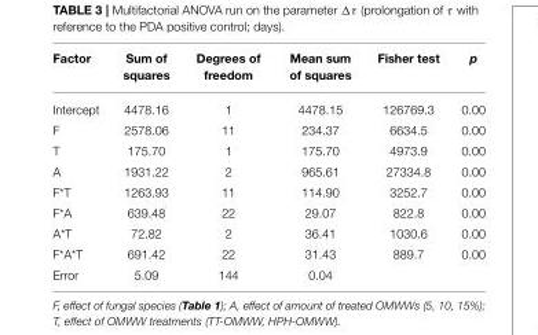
<table><thead><tr><td>Factor</td><td>Sum of squares</td><td>Degrees of freedom</td><td>Mean sum of squares</td><td>Fisher test</td><td>p</td></tr></thead><tbody><tr><td>Intercept</td><td>4478.16</td><td>1</td><td>4478.15</td><td>126769.3</td><td>0.00</td></tr><tr><td>F</td><td>2578.06</td><td>11</td><td>234.37</td><td>6634.5</td><td>0.00</td></tr><tr><td>T</td><td>175.70</td><td>1</td><td>175.70</td><td>4973.9</td><td>0.00</td></tr><tr><td>A</td><td>1931.22</td><td>2</td><td>965.61</td><td>27334.8</td><td>0.00</td></tr><tr><td>F*T</td><td>1263.93</td><td>11</td><td>114.90</td><td>3252.7</td><td>0.00</td></tr><tr><td>F*A</td><td>639.48</td><td>22</td><td>29.07</td><td>822.8</td><td>0.00</td></tr><tr><td>A*T</td><td>72.82</td><td>2</td><td>36.41</td><td>1030.6</td><td>0.00</td></tr><tr><td>F*A*T</td><td>691.42</td><td>22</td><td>31.43</td><td>889.7</td><td>0.00</td></tr><tr><td>Error</td><td>5.09</td><td>144</td><td>0.04</td><td></td><td></td></tr></tbody></table>